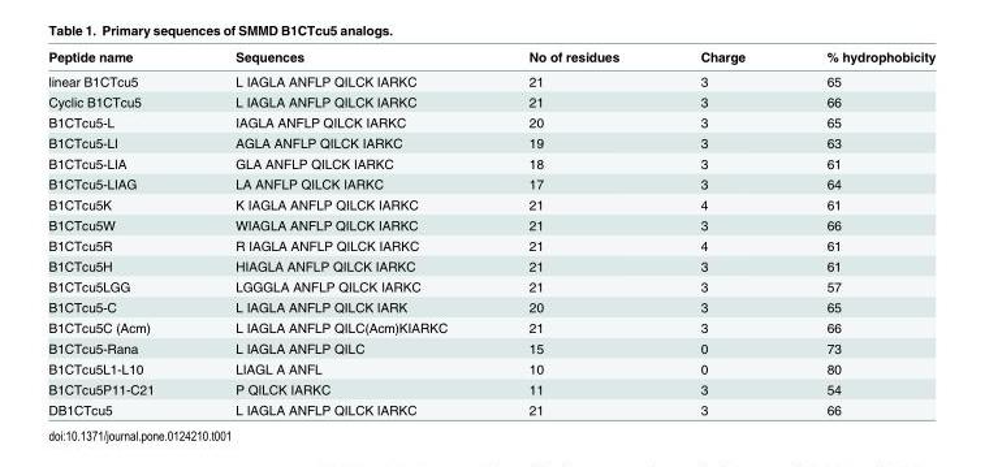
<table><thead><tr><td>Peptide name</td><td>Sequences</td><td>No of residues</td><td>Charge</td><td>% hydrophobicity</td></tr></thead><tbody><tr><td>linear B1CTcu5</td><td>L IAGLA ANFLP QILCK IARKC</td><td>21</td><td>3</td><td>65</td></tr><tr><td>Cyclic B1CTcu5</td><td>L IAGLA ANFLP QILCK IARKC</td><td>21</td><td>3</td><td>66</td></tr><tr><td>B1CTcu5-L</td><td>IAGLA ANFLP QILCK IARKC</td><td>20</td><td>3</td><td>65</td></tr><tr><td>B1CTcu5-LI</td><td>AGLA ANFLP QILCK IARKC</td><td>19</td><td>3</td><td>63</td></tr><tr><td>B1CTcu5-LIA</td><td>GLA ANFLP QILCK IARKC</td><td>18</td><td>3</td><td>61</td></tr><tr><td>B1CTcu5-LIAG</td><td>LA ANFLP QILCK IARKC</td><td>17</td><td>3</td><td>64</td></tr><tr><td>B1CTcu5K</td><td>K IAGLA ANFLP QILCK IARKC</td><td>21</td><td>4</td><td>61</td></tr><tr><td>B1CTcu5W</td><td>WIAGLA ANFLP QILCK IARKC</td><td>21</td><td>3</td><td>66</td></tr><tr><td>B1CTcu5R</td><td>R IAGLA ANFLP QILCK IARKC</td><td>21</td><td>4</td><td>61</td></tr><tr><td>B1CTcu5H</td><td>HIAGLA ANFLP QILCK IARKC</td><td>21</td><td>3</td><td>61</td></tr><tr><td>B1CTcu5LGG</td><td>LGGGLA ANFLP QILCK IARKC</td><td>21</td><td>3</td><td>57</td></tr><tr><td>B1CTcu5-C</td><td>L IAGLA ANFLP QILCK IARK</td><td>20</td><td>3</td><td>65</td></tr><tr><td>B1CTcu5C (Acm)</td><td>L IAGLA ANFLP QILC(Acm)KIARKC</td><td>21</td><td>3</td><td>66</td></tr><tr><td>B1CTcu5-Rana</td><td>L IAGLA ANFLP QILC</td><td>15</td><td>0</td><td>73</td></tr><tr><td>B1CTcu5L1-L10</td><td>LIAGL A ANFL</td><td>10</td><td>0</td><td>80</td></tr><tr><td>B1CTcu5P11-C21</td><td>P QILCK IARKC</td><td>11</td><td>3</td><td>54</td></tr><tr><td>DB1CTcu5</td><td>L IAGLA ANFLP QILCK IARKC</td><td>21</td><td>3</td><td>66</td></tr></tbody></table>